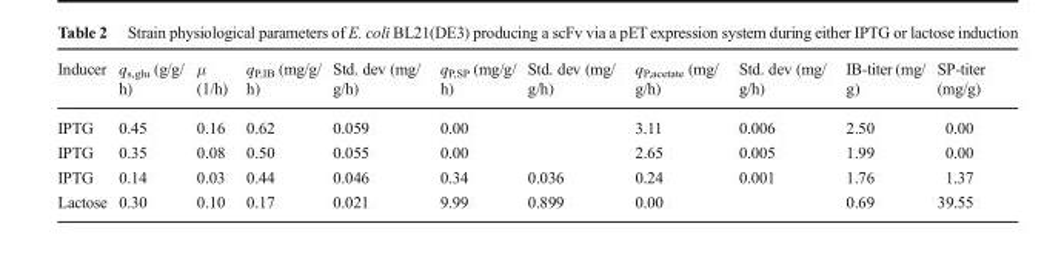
<table><thead><tr><td>Inducer</td><td>q<sub>s,glu</sub> (g/g/ h)</td><td>μ (1/h)</td><td>q<sub>P,IB</sub> (mg/g/ h)</td><td>Std. dev (mg/ g/h)</td><td>q<sub>P,SP</sub> (mg/g/ h)</td><td>Std. dev (mg/ g/h)</td><td>q<sub>P,acetate</sub> (mg/ g/h)</td><td>Std. dev (mg/ g/h)</td><td>IB-titer (mg/ g)</td><td>SP-titer (mg/g)</td></tr></thead><tbody><tr><td>IPTG</td><td>0.45</td><td>0.16</td><td>0.62</td><td>0.059</td><td>0.00</td><td></td><td>3.11</td><td>0.006</td><td>2.50</td><td>0.00</td></tr><tr><td>IPTG</td><td>0.35</td><td>0.08</td><td>0.50</td><td>0.055</td><td>0.00</td><td></td><td>2.65</td><td>0.005</td><td>1.99</td><td>0.00</td></tr><tr><td>IPTG</td><td>0.14</td><td>0.03</td><td>0.44</td><td>0.046</td><td>0.34</td><td>0.036</td><td>0.24</td><td>0.001</td><td>1.76</td><td>1.37</td></tr><tr><td>Lactose</td><td>0.30</td><td>0.10</td><td>0.17</td><td>0.021</td><td>9.99</td><td>0.899</td><td>0.00</td><td></td><td>0.69</td><td>39.55</td></tr></tbody></table>